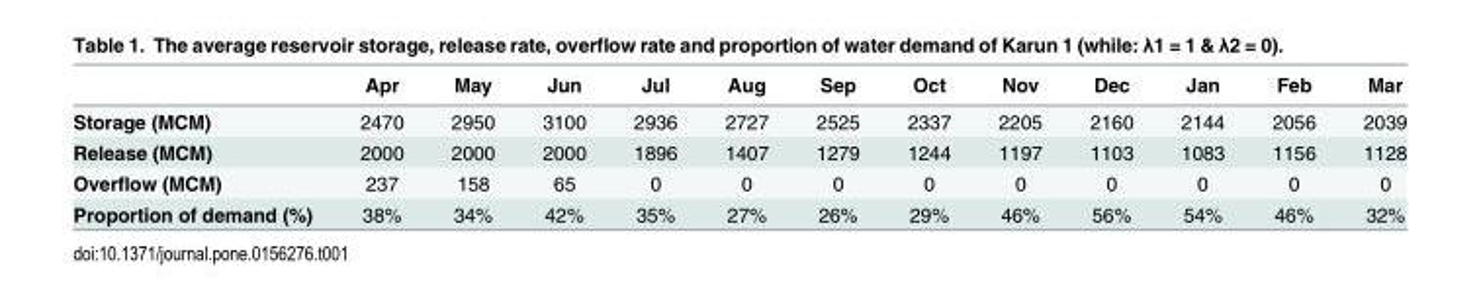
<table><thead><tr><td></td><td>Apr</td><td>May</td><td>Jun</td><td>Jul</td><td>Aug</td><td>Sep</td><td>Oct</td><td>Nov</td><td>Dec</td><td>Jan</td><td>Feb</td><td>Mar</td></tr></thead><tbody><tr><td>Storage (MCM)</td><td>2470</td><td>2950</td><td>3100</td><td>2936</td><td>2727</td><td>2525</td><td>2337</td><td>2205</td><td>2160</td><td>2144</td><td>2056</td><td>2039</td></tr><tr><td>Release (MCM)</td><td>2000</td><td>2000</td><td>2000</td><td>1896</td><td>1407</td><td>1279</td><td>1244</td><td>1197</td><td>1103</td><td>1083</td><td>1156</td><td>1128</td></tr><tr><td>Overflow (MCM)</td><td>237</td><td>158</td><td>65</td><td>0</td><td>0</td><td>0</td><td>0</td><td>0</td><td>0</td><td>0</td><td>0</td><td>0</td></tr><tr><td>Proportion of demand (%)</td><td>38%</td><td>34%</td><td>42%</td><td>35%</td><td>27%</td><td>26%</td><td>29%</td><td>46%</td><td>56%</td><td>54%</td><td>46%</td><td>32%</td></tr></tbody></table>